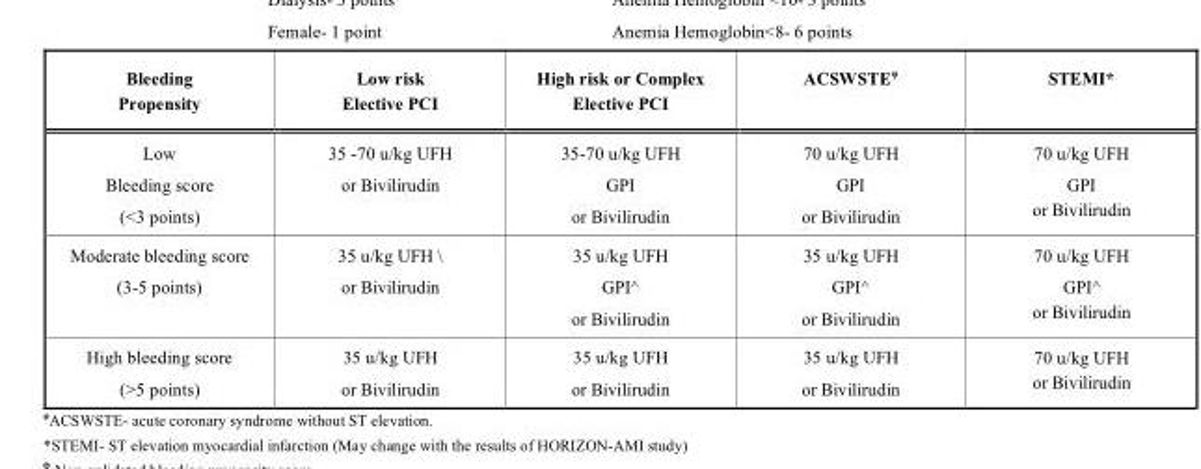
<table><thead><tr><td>Bleeding Propensity</td><td>Low risk Elective PCI</td><td>High risk or Complex Elective PCI</td><td>ACSWSTEφ</td><td>STEMI*</td></tr></thead><tbody><tr><td>Low Bleeding score (&lt;3 points)</td><td>35 -70 u/kg UFH or Bivilirudin</td><td>35-70 u/kg UFH GPI or Bivilirudin</td><td>70 u/kg UFH GPI or Bivilirudin</td><td>70 u/kg UFH GPI or Bivilirudin</td></tr><tr><td>Moderate bleeding score (3-5 points)</td><td>35 u/kg UFH \ or Bivilirudin</td><td>35 u/kg UFH GPI^ or Bivilirudin</td><td>35 u/kg UFH GPI^ or Bivilirudin</td><td>70 u/kg UFH GPI^ or Bivilirudin</td></tr><tr><td>High bleeding score (&gt;5 points)</td><td>35 u/kg UFH or Bivilirudin</td><td>35 u/kg UFH or Bivilirudin</td><td>35 u/kg UFH or Bivilirudin</td><td>70 u/kg UFH or Bivilirudin</td></tr></tbody></table>